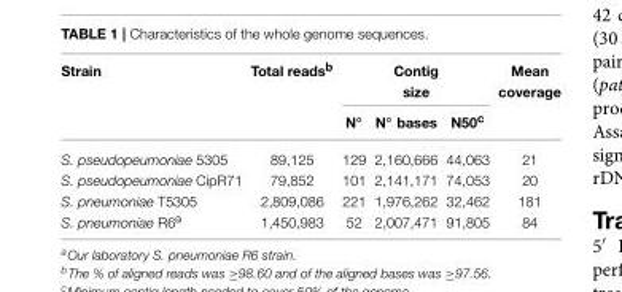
<table><thead><tr><td rowspan="2">Strain</td><td rowspan="2">Total reads<sup>b</sup></td><td colspan="3">Contig size</td><td rowspan="2">Mean coverage</td></tr><tr><td>N◦</td><td>N◦ bases</td><td>N50<sup>c</sup></td></tr></thead><tbody><tr><td>S. pseudopeumoniae 5305</td><td>89,125</td><td>129</td><td>2,160,666</td><td>44,063</td><td>21</td></tr><tr><td>S. pseudopeumoniae CipR71</td><td>79,852</td><td>101</td><td>2,141,171</td><td>74,053</td><td>20</td></tr><tr><td>S. pneumoniae T5305</td><td>2,809,086</td><td>221</td><td>1,976,262</td><td>32,462</td><td>181</td></tr><tr><td>S. pneumoniae R6<sup>a</sup></td><td>1,450,983</td><td>52</td><td>2,007,471</td><td>91,805</td><td>84</td></tr></tbody></table>